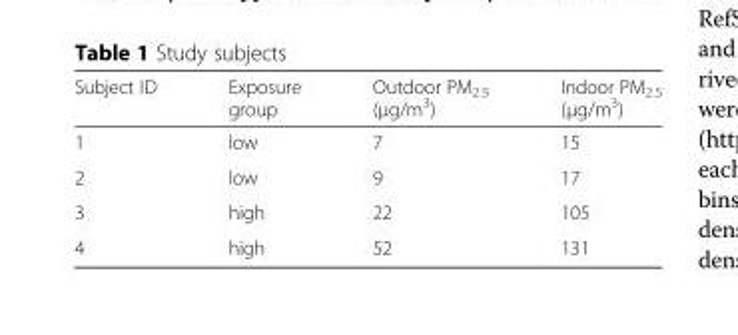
<table><thead><tr><td>Subject ID</td><td>Exposure group</td><td>Outdoor PM<sub>2.5</sub> (μg/m<sup>3</sup>)</td><td>Indoor PM<sub>2.5</sub> (μg/m<sup>3</sup>)</td></tr></thead><tbody><tr><td>1</td><td>low</td><td>7</td><td>15</td></tr><tr><td>2</td><td>low</td><td>9</td><td>17</td></tr><tr><td>3</td><td>high</td><td>22</td><td>105</td></tr><tr><td>4</td><td>high</td><td>52</td><td>131</td></tr></tbody></table>